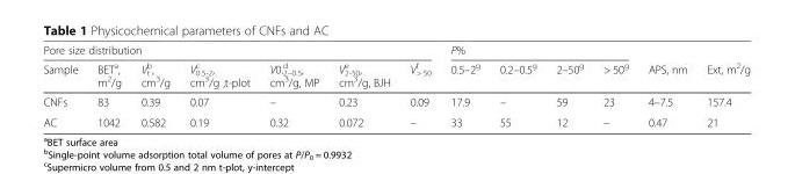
<table><thead><tr><td colspan="7">Pore size distribution</td><td colspan="4">P%</td><td rowspan="2">APS, nm</td><td rowspan="2">Ext, m<sup>2</sup>/g</td></tr><tr><td>Sample</td><td>BET<sup>a</sup>, m<sup>2</sup>/g</td><td>V<sub>t</sub> <sup>b</sup>, cm<sup>3</sup>/g</td><td>V<sub>0.5-2</sub> <sup>c</sup> , cm<sup>3</sup>/g ,t-plot</td><td>V0.<sub>2–0.5</sub> <sup>d</sup> , cm<sup>3</sup>/g, MP</td><td>V<sub>2-50</sub> <sup>e</sup> , cm<sup>3</sup>/g, BJH</td><td>V<sub>&gt; 50</sub> <sup>f</sup></td><td>0.5–2<sup>g</sup></td><td>0.2–0.5<sup>g</sup></td><td>2–50<sup>g</sup></td><td>&gt; 50<sup>g</sup></td></tr></thead><tbody><tr><td>CNFs</td><td>83</td><td>0.39</td><td>0.07</td><td>–</td><td>0.23</td><td>0.09</td><td>17.9</td><td>–</td><td>59</td><td>23</td><td>4–7.5</td><td>157.4</td></tr><tr><td>AC</td><td>1042</td><td>0.582</td><td>0.19</td><td>0.32</td><td>0.072</td><td>–</td><td>33</td><td>55</td><td>12</td><td>–</td><td>0.47</td><td>21</td></tr></tbody></table>